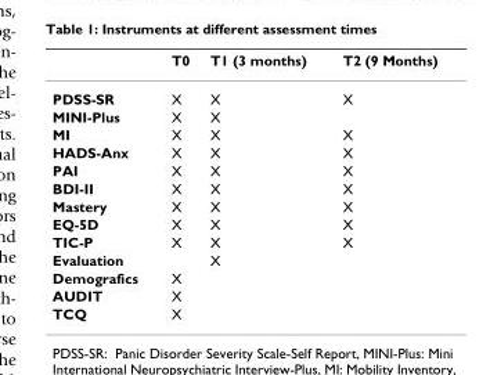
<table><thead><tr><td></td><td>T0</td><td>T1 (3 months)</td><td>T2 (9 Months)</td></tr></thead><tbody><tr><td>PDSS-SR</td><td>X</td><td>X</td><td>X</td></tr><tr><td>MINI-Plus</td><td>X</td><td>X</td><td></td></tr><tr><td>MI</td><td>X</td><td>X</td><td>X</td></tr><tr><td>HADS-Anx</td><td>X</td><td>X</td><td>X</td></tr><tr><td>PAI</td><td>X</td><td>X</td><td>X</td></tr><tr><td>BDI-II</td><td>X</td><td>X</td><td>X</td></tr><tr><td>Mastery</td><td>X</td><td>X</td><td>X</td></tr><tr><td>EQ-5D</td><td>X</td><td>X</td><td>X</td></tr><tr><td>TIC-P</td><td>X</td><td>X</td><td>X</td></tr><tr><td>Evaluation</td><td></td><td>X</td><td></td></tr><tr><td>Demografics</td><td>X</td><td></td><td></td></tr><tr><td>AUDIT</td><td>X</td><td></td><td></td></tr><tr><td>TCQ</td><td>X</td><td></td><td></td></tr></tbody></table>